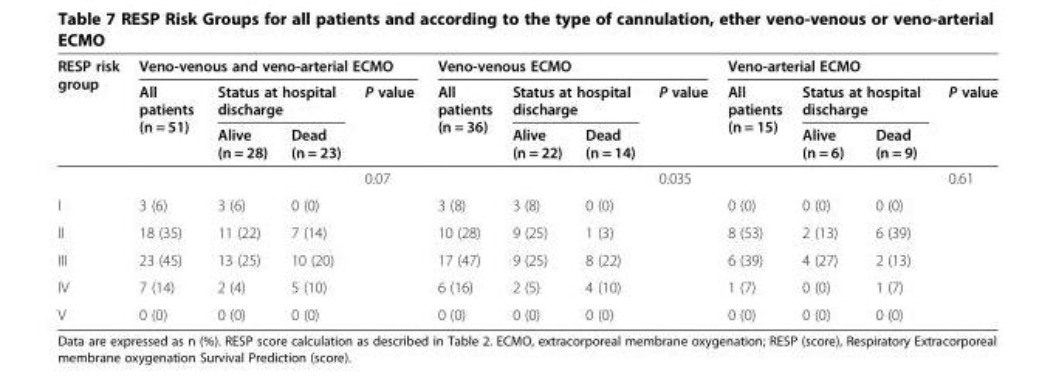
<table><thead><tr><td rowspan="3">RESP risk group</td><td colspan="4">Veno-venous and veno-arterial ECMO</td><td colspan="4">Veno-venous ECMO</td><td colspan="4">Veno-arterial ECMO</td></tr><tr><td rowspan="2">All patients (n = 51)</td><td colspan="2">Status at hospital discharge</td><td rowspan="2">P value</td><td rowspan="2">All patients (n = 36)</td><td colspan="2">Status at hospital discharge</td><td rowspan="2">P value</td><td rowspan="2">All patients (n = 15)</td><td colspan="2">Status at hospital discharge</td><td rowspan="2">P value</td></tr><tr><td>Alive (n = 28)</td><td>Dead (n = 23)</td><td>Alive (n = 22)</td><td>Dead (n = 14)</td><td>Alive (n = 6)</td><td>Dead (n = 9)</td></tr></thead><tbody><tr><td></td><td></td><td></td><td></td><td>0.07</td><td></td><td></td><td></td><td>0.035</td><td></td><td></td><td></td><td>0.61</td></tr><tr><td>I</td><td>3 (6)</td><td>3 (6)</td><td>0 (0)</td><td></td><td>3 (8)</td><td>3 (8)</td><td>0 (0)</td><td></td><td>0 (0)</td><td>0 (0)</td><td>0 (0)</td><td></td></tr><tr><td>II</td><td>18 (35)</td><td>11 (22)</td><td>7 (14)</td><td></td><td>10 (28)</td><td>9 (25)</td><td>1 (3)</td><td></td><td>8 (53)</td><td>2 (13)</td><td>6 (39)</td><td></td></tr><tr><td>III</td><td>23 (45)</td><td>13 (25)</td><td>10 (20)</td><td></td><td>17 (47)</td><td>9 (25)</td><td>8 (22)</td><td></td><td>6 (39)</td><td>4 (27)</td><td>2 (13)</td><td></td></tr><tr><td>IV</td><td>7 (14)</td><td>2 (4)</td><td>5 (10)</td><td></td><td>6 (16)</td><td>2 (5)</td><td>4 (10)</td><td></td><td>1 (7)</td><td>0 (0)</td><td>1 (7)</td><td></td></tr><tr><td>V</td><td>0 (0)</td><td>0 (0)</td><td>0 (0)</td><td></td><td>0 (0)</td><td>0 (0)</td><td>0 (0)</td><td></td><td>0 (0)</td><td>0 (0)</td><td>0 (0)</td><td></td></tr></tbody></table>